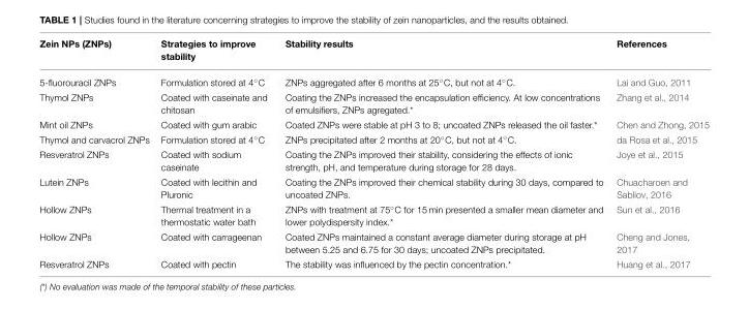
<table><thead><tr><td>Zein NPs (ZNPs)</td><td>Strategies to improve stability</td><td>Stability results</td><td>References</td></tr></thead><tbody><tr><td>5-fluorouracil ZNPs</td><td>Formulation stored at 4◦C</td><td>ZNPs aggregated after 6 months at 25◦C, but not at 4◦C.</td><td>Lai and Guo, 2011</td></tr><tr><td>Thymol ZNPs</td><td>Coated with caseinate and chitosan</td><td>Coating the ZNPs increased the encapsulation efficiency. At low concentrations of emulsifiers, ZNPs agregated.*</td><td>Zhang et al., 2014</td></tr><tr><td>Mint oil ZNPs</td><td>Coated with gum arabic</td><td>Coated ZNPs were stable at pH 3 to 8; uncoated ZNPs released the oil faster.*</td><td>Chen and Zhong, 2015</td></tr><tr><td>Thymol and carvacrol ZNPs</td><td>Formulation stored at 4◦C</td><td>ZNPs precipitated after 2 months at 20◦C, but not at 4◦C.</td><td>da Rosa et al., 2015</td></tr><tr><td>Resveratrol ZNPs</td><td>Coated with sodium caseinate</td><td>Coating the ZNPs improved their stability, considering the effects of ionic strength, pH, and temperature during storage for 28 days.</td><td>Joye et al., 2015</td></tr><tr><td>Lutein ZNPs</td><td>Coated with lecithin and Pluronic</td><td>Coating the ZNPs improved their chemical stability during 30 days, compared to uncoated ZNPs.</td><td>Chuacharoen and Sabliov, 2016</td></tr><tr><td>Hollow ZNPs</td><td>Thermal treatment in a thermostatic water bath</td><td>ZNPs with treatment at 75◦C for 15 min presented a smaller mean diameter and lower polydispersity index.*</td><td>Sun et al., 2016</td></tr><tr><td>Hollow ZNPs</td><td>Coated with carrageenan</td><td>Coated ZNPs maintained a constant average diameter during storage at pH between 5.25 and 6.75 for 30 days; uncoated ZNPs precipitated.</td><td>Cheng and Jones, 2017</td></tr><tr><td>Resveratrol ZNPs</td><td>Coated with pectin</td><td>The stability was influenced by the pectin concentration.*</td><td>Huang et al., 2017</td></tr></tbody></table>